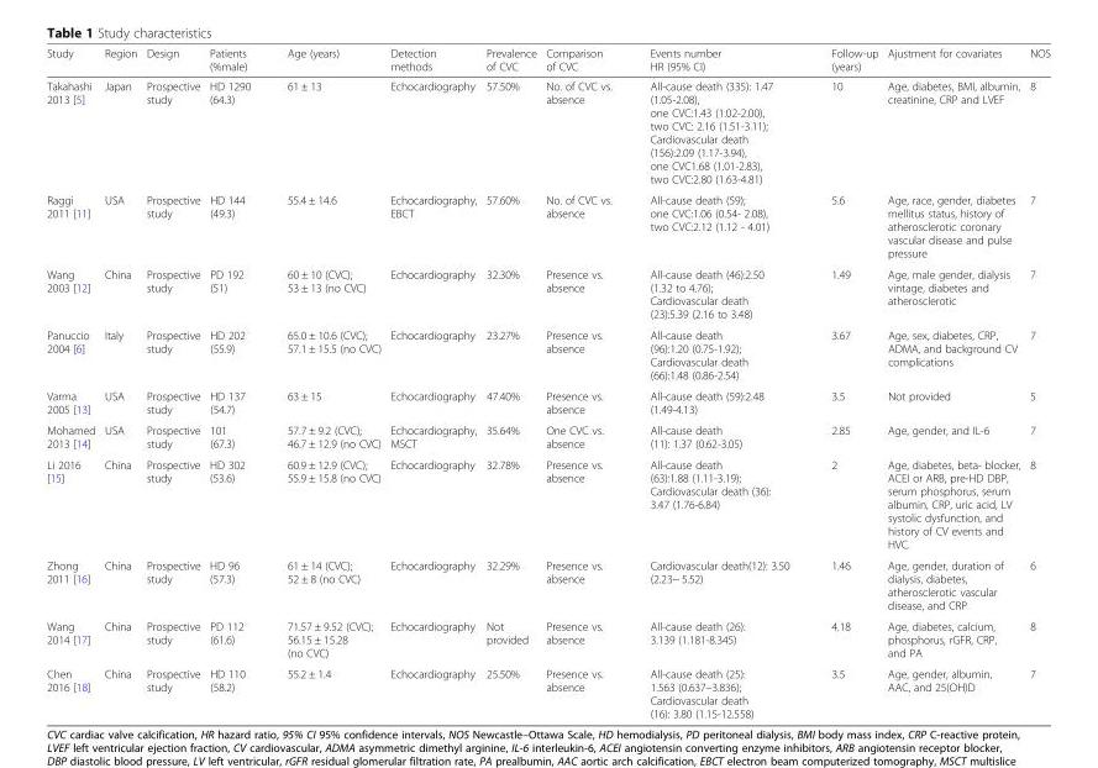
<table><thead><tr><td>Study</td><td>Region</td><td>Design</td><td>Patients (%male)</td><td>Age (years)</td><td>Detection methods</td><td>Prevalence of CVC</td><td>Comparison of CVC</td><td>Events number HR (95% CI)</td><td>Follow-up (years)</td><td>Ajustment for covariates</td><td>NOS</td></tr></thead><tbody><tr><td>Takahashi 2013 [5]</td><td>Japan</td><td>Prospective study</td><td>HD 1290 (64.3)</td><td>61 ± 13</td><td>Echocardiography</td><td>57.50%</td><td>No. of CVC vs. absence</td><td>All-cause death (335): 1.47 (1.05-2.08), one CVC:1.43 (1.02-2.00), two CVC: 2.16 (1.51-3.11); Cardiovascular death (156):2.09 (1.17-3.94), one CVC1.68 (1.01-2.83), two CVC:2.80 (1.63-4.81)</td><td>10</td><td>Age, diabetes, BMI, albumin, creatinine, CRP and LVEF</td><td>8</td></tr><tr><td>Raggi 2011 [11]</td><td>USA</td><td>Prospective study</td><td>HD 144 (49.3)</td><td>55.4 ± 14.6</td><td>Echocardiography, EBCT</td><td>57.60%</td><td>No. of CVC vs. absence</td><td>All-cause death (59); one CVC:1.06 (0.54- 2.08), two CVC:2.12 (1.12 - 4.01)</td><td>5.6</td><td>Age, race, gender, diabetes mellitus status, history of atherosclerotic coronary vascular disease and pulse pressure</td><td>7</td></tr><tr><td>Wang 2003 [12]</td><td>China</td><td>Prospective study</td><td>PD 192 (51)</td><td>60 ± 10 (CVC); 53 ± 13 (no CVC)</td><td>Echocardiography</td><td>32.30%</td><td>Presence vs. absence</td><td>All-cause death (46):2.50 (1.32 to 4.76); Cardiovascular death (23):5.39 (2.16 to 3.48)</td><td>1.49</td><td>Age, male gender, dialysis vintage, diabetes and atherosclerotic</td><td>7</td></tr><tr><td>Panuccio 2004 [6]</td><td>Italy</td><td>Prospective study</td><td>HD 202 (55.9)</td><td>65.0 ± 10.6 (CVC); 57.1 ± 15.5 (no CVC)</td><td>Echocardiography</td><td>23.27%</td><td>Presence vs. absence</td><td>All-cause death (96):1.20 (0.75-1.92); Cardiovascular death (66):1.48 (0.86-2.54)</td><td>3.67</td><td>Age, sex, diabetes, CRP, ADMA, and background CV complications</td><td>7</td></tr><tr><td>Varma 2005 [13]</td><td>USA</td><td>Prospective study</td><td>HD 137 (54.7)</td><td>63 ± 15</td><td>Echocardiography</td><td>47.40%</td><td>Presence vs. absence</td><td>All-cause death (59):2.48 (1.49-4.13)</td><td>3.5</td><td>Not provided</td><td>5</td></tr><tr><td>Mohamed 2013 [14]</td><td>USA</td><td>Prospective study</td><td>101 (67.3)</td><td>57.7 ± 9.2 (CVC); 46.7 ± 12.9 (no CVC)</td><td>Echocardiography, MSCT</td><td>35.64%</td><td>One CVC vs. absence</td><td>All-cause death (11): 1.37 (0.62-3.05)</td><td>2.85</td><td>Age, gender, and IL-6</td><td>7</td></tr><tr><td>Li 2016 [15]</td><td>China</td><td>Prospective study</td><td>HD 302 (53.6)</td><td>60.9 ± 12.9 (CVC); 55.9 ± 15.8 (no CVC)</td><td>Echocardiography</td><td>32.78%</td><td>Presence vs. absence</td><td>All-cause death (63):1.88 (1.11-3.19); Cardiovascular death (36): 3.47 (1.76-6.84)</td><td>2</td><td>Age, diabetes, beta- blocker, ACEI or ARB, pre-HD DBP, serum phosphorus, serum albumin, CRP, uric acid, LV systolic dysfunction, and history of CV events and HVC.</td><td>8</td></tr><tr><td>Zhong 2011 [16]</td><td>China</td><td>Prospective study</td><td>HD 96 (57.3)</td><td>61 ± 14 (CVC); 52 ± 8 (no CVC)</td><td>Echocardiography</td><td>32.29%</td><td>Presence vs. absence</td><td>Cardiovascular death(12): 3.50 (2.23~ 5.52)</td><td>1.46</td><td>Age, gender, duration of dialysis, diabetes, atherosclerotic vascular disease, and CRP</td><td>6</td></tr><tr><td>Wang 2014 [17]</td><td>China</td><td>Prospective study</td><td>PD 112 (61.6)</td><td>71.57 ± 9.52 (CVC); 56.15 ± 15.28 (no CVC)</td><td>Echocardiography</td><td>Not provided</td><td>Presence vs. absence</td><td>All-cause death (26): 3.139 (1.181-8.345)</td><td>4.18</td><td>Age, diabetes, calcium, phosphorus, rGFR, CRP, and PA</td><td>8</td></tr><tr><td>Chen 2016 [18]</td><td>China</td><td>Prospective study</td><td>HD 110 (58.2)</td><td>55.2 ± 1.4</td><td>Echocardiography</td><td>25.50%</td><td>Presence vs. absence</td><td>All-cause death (25): 1.563 (0.637–3.836); Cardiovascular death (16): 3.80 (1.15-12.558)</td><td>3.5</td><td>Age, gender, albumin, AAC, and 25(OH)D</td><td>7</td></tr></tbody></table>